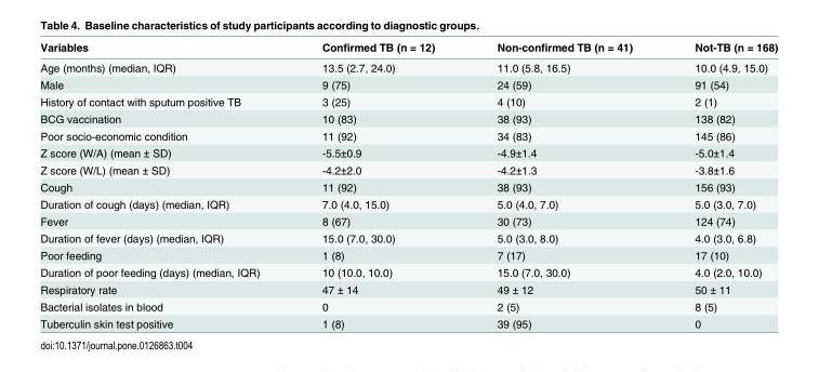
<table><thead><tr><td>Variables</td><td>Confirmed TB (n = 12)</td><td>Non-confirmed TB (n = 41)</td><td>Not-TB (n = 168)</td></tr></thead><tbody><tr><td>Age (months) (median, IQR)</td><td>13.5 (2.7, 24.0)</td><td>11.0 (5.8, 16.5)</td><td>10.0 (4.9, 15.0)</td></tr><tr><td>Male</td><td>9 (75)</td><td>24 (59)</td><td>91 (54)</td></tr><tr><td>History of contact with sputum positive TB</td><td>3 (25)</td><td>4 (10)</td><td>2 (1)</td></tr><tr><td>BCG vaccination</td><td>10 (83)</td><td>38 (93)</td><td>138 (82)</td></tr><tr><td>Poor socio-economic condition</td><td>11 (92)</td><td>34 (83)</td><td>145 (86)</td></tr><tr><td>Z score (W/A) (mean ± SD)</td><td>-5.5±0.9</td><td>-4.9±1.4</td><td>-5.0±1.4</td></tr><tr><td>Z score (W/L) (mean ± SD)</td><td>-4.2±2.0</td><td>-4.2±1.3</td><td>-3.8±1.6</td></tr><tr><td>Cough</td><td>11 (92)</td><td>38 (93)</td><td>156 (93)</td></tr><tr><td>Duration of cough (days) (median, IQR)</td><td>7.0 (4.0, 15.0)</td><td>5.0 (4.0, 7.0)</td><td>5.0 (3.0, 7.0)</td></tr><tr><td>Fever</td><td>8 (67)</td><td>30 (73)</td><td>124 (74)</td></tr><tr><td>Duration of fever (days) (median, IQR)</td><td>15.0 (7.0, 30.0)</td><td>5.0 (3.0, 8.0)</td><td>4.0 (3.0, 6.8)</td></tr><tr><td>Poor feeding</td><td>1 (8)</td><td>7 (17)</td><td>17 (10)</td></tr><tr><td>Duration of poor feeding (days) (median, IQR)</td><td>10 (10.0, 10.0)</td><td>15.0 (7.0, 30.0)</td><td>4.0 (2.0, 10.0)</td></tr><tr><td>Respiratory rate</td><td>47 ± 14</td><td>49 ± 12</td><td>50 ± 11</td></tr><tr><td>Bacterial isolates in blood</td><td>0</td><td>2 (5)</td><td>8 (5)</td></tr><tr><td>Tuberculin skin test positive</td><td>1 (8)</td><td>39 (95)</td><td>0</td></tr></tbody></table>